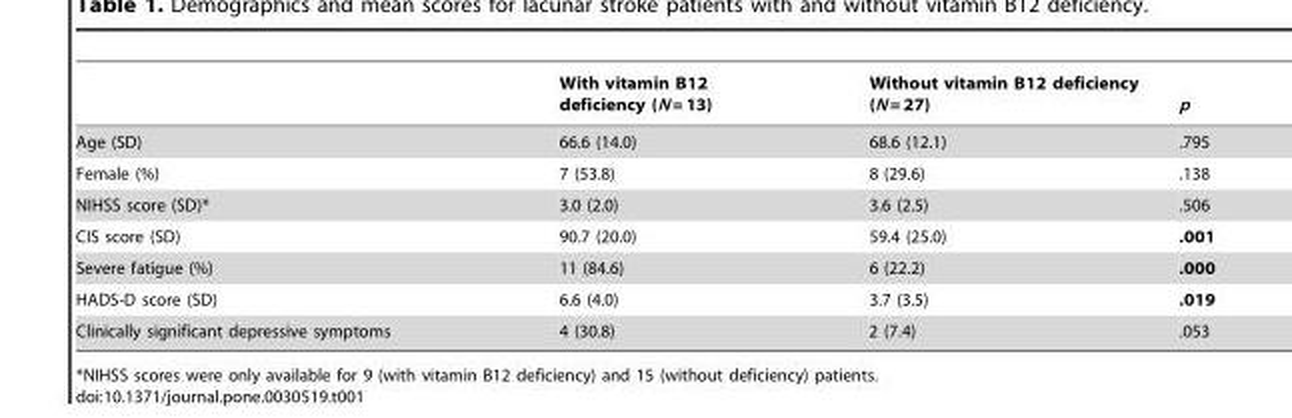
<table><thead><tr><td></td><td>With vitamin B12 deficiency (N = 13)</td><td>Without vitamin B12 deficiency (N = 27)</td><td>p</td></tr></thead><tbody><tr><td>Age (SD)</td><td>66.6 (14.0)</td><td>68.6 (12.1)</td><td>.795</td></tr><tr><td>Female (%)</td><td>7 (53.8)</td><td>8 (29.6)</td><td>.138</td></tr><tr><td>NIHSS score (SD)*</td><td>3.0 (2.0)</td><td>3.6 (2.5)</td><td>.506</td></tr><tr><td>CIS score (SD)</td><td>90.7 (20.0)</td><td>59.4 (25.0)</td><td>.001</td></tr><tr><td>Severe fatigue (%)</td><td>11 (84.6)</td><td>6 (22.2)</td><td>.000</td></tr><tr><td>HADS-D score (SD)</td><td>6.6 (4.0)</td><td>3.7 (3.5)</td><td>.019</td></tr><tr><td>Clinically significant depressive symptoms</td><td>4 (30.8)</td><td>2 (7.4)</td><td>.053</td></tr></tbody></table>